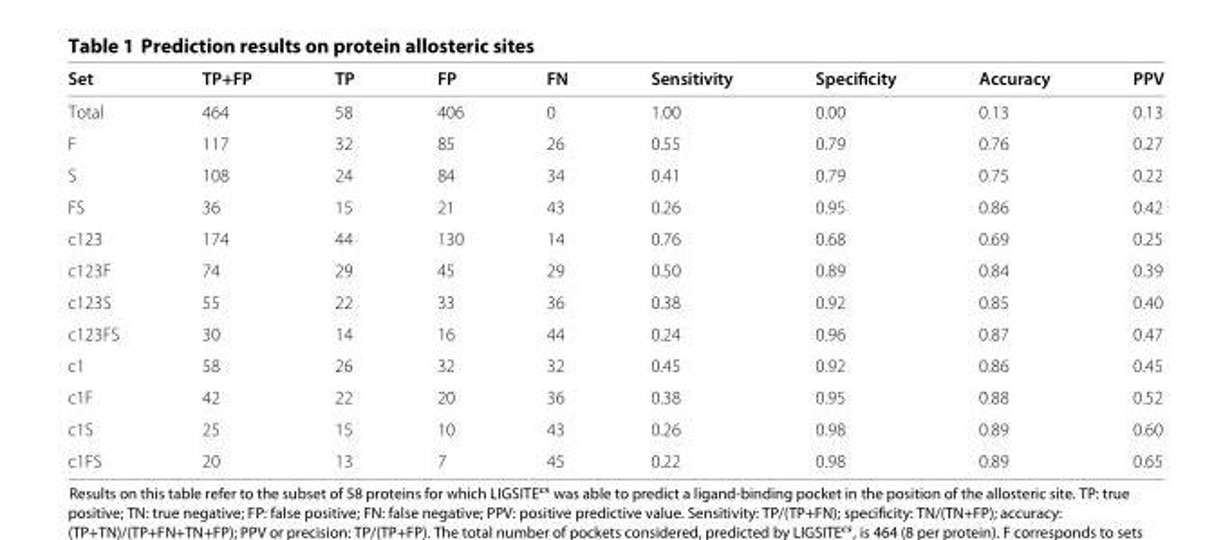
<table><thead><tr><td>Set</td><td>TP+FP</td><td>TP</td><td>FP</td><td>FN</td><td>Sensitivity</td><td>Specificity</td><td>Accuracy</td><td>PPV</td></tr></thead><tbody><tr><td>Total</td><td>464</td><td>58</td><td>406</td><td>0</td><td>1.00</td><td>0.00</td><td>0.13</td><td>0.13</td></tr><tr><td>F</td><td>117</td><td>32</td><td>85</td><td>26</td><td>0.55</td><td>0.79</td><td>0.76</td><td>0.27</td></tr><tr><td>S</td><td>108</td><td>24</td><td>84</td><td>34</td><td>0.41</td><td>0.79</td><td>0.75</td><td>0.22</td></tr><tr><td>FS</td><td>36</td><td>15</td><td>21</td><td>43</td><td>0.26</td><td>0.95</td><td>0.86</td><td>0.42</td></tr><tr><td>c123</td><td>174</td><td>44</td><td>130</td><td>14</td><td>0.76</td><td>0.68</td><td>0.69</td><td>0.25</td></tr><tr><td>c123F</td><td>74</td><td>29</td><td>45</td><td>29</td><td>0.50</td><td>0.89</td><td>0.84</td><td>0.39</td></tr><tr><td>c123S</td><td>55</td><td>22</td><td>33</td><td>36</td><td>0.38</td><td>0.92</td><td>0.85</td><td>0.40</td></tr><tr><td>c123FS</td><td>30</td><td>14</td><td>16</td><td>44</td><td>0.24</td><td>0.96</td><td>0.87</td><td>0.47</td></tr><tr><td>c1</td><td>58</td><td>26</td><td>32</td><td>32</td><td>0.45</td><td>0.92</td><td>0.86</td><td>0.45</td></tr><tr><td>c1F</td><td>42</td><td>22</td><td>20</td><td>36</td><td>0.38</td><td>0.95</td><td>0.88</td><td>0.52</td></tr><tr><td>c1S</td><td>25</td><td>15</td><td>10</td><td>43</td><td>0.26</td><td>0.98</td><td>0.89</td><td>0.60</td></tr><tr><td>c1FS</td><td>20</td><td>13</td><td>7</td><td>45</td><td>0.22</td><td>0.98</td><td>0.89</td><td>0.65</td></tr></tbody></table>